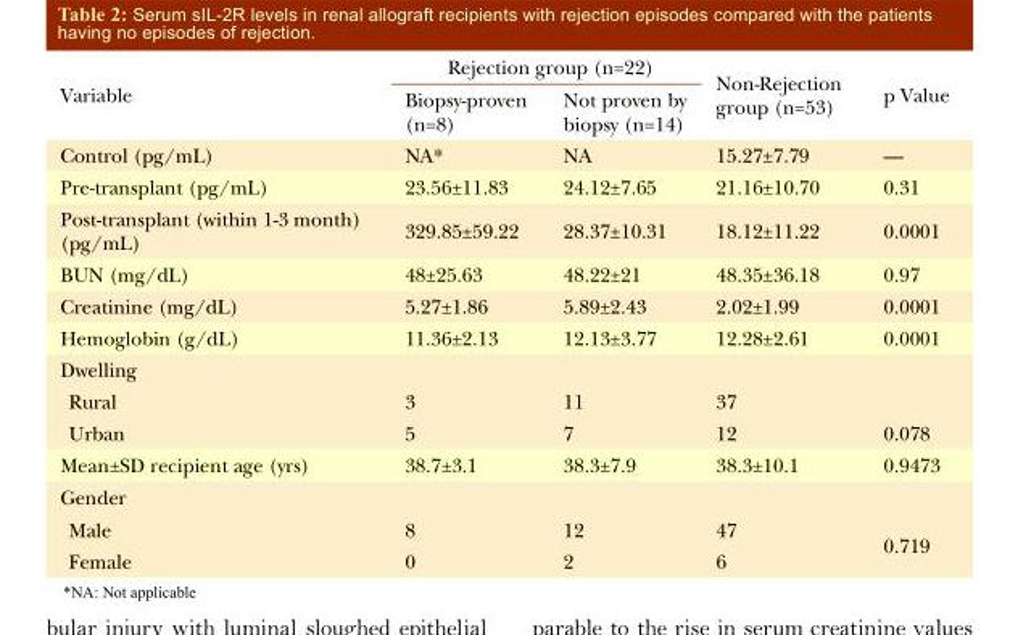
<table><thead><tr><td rowspan="2">Variable</td><td colspan="2">Rejection group (n=22)</td><td rowspan="2">Non-Rejection group (n=53)</td><td rowspan="2">p Value</td></tr><tr><td>Biopsy-proven (n=8)</td><td>Not proven by biopsy (n=14)</td></tr></thead><tbody><tr><td>Control (pg/mL)</td><td>NA*</td><td>NA</td><td>15.27±7.79</td><td>—</td></tr><tr><td>Pre-transplant (pg/mL)</td><td>23.56±11.83</td><td>24.12±7.65</td><td>21.16±10.70</td><td>0.31</td></tr><tr><td>Post-transplant (within 1-3 month) (pg/mL)</td><td>329.85±59.22</td><td>28.37±10.31</td><td>18.12±11.22</td><td>0.0001</td></tr><tr><td>BUN (mg/dL)</td><td>48±25.63</td><td>48.22±21</td><td>48.35±36.18</td><td>0.97</td></tr><tr><td>Creatinine (mg/dL)</td><td>5.27±1.86</td><td>5.89±2.43</td><td>2.02±1.99</td><td>0.0001</td></tr><tr><td>Hemoglobin (g/dL)</td><td>11.36±2.13</td><td>12.13±3.77</td><td>12.28±2.61</td><td>0.0001</td></tr><tr><td colspan="5">Dwelling</td></tr><tr><td>Rural</td><td>3</td><td>11</td><td>37</td><td></td></tr><tr><td>Urban</td><td>5</td><td>7</td><td>12</td><td>0.078</td></tr><tr><td>Mean±SD recipient age (yrs)</td><td>38.7±3.1</td><td>38.3±7.9</td><td>38.3±10.1</td><td>0.9473</td></tr><tr><td colspan="5">Gender</td></tr><tr><td>Male</td><td>8</td><td>12</td><td>47</td><td rowspan="2">0.719</td></tr><tr><td>Female</td><td>0</td><td>2</td><td>6</td></tr></tbody></table>